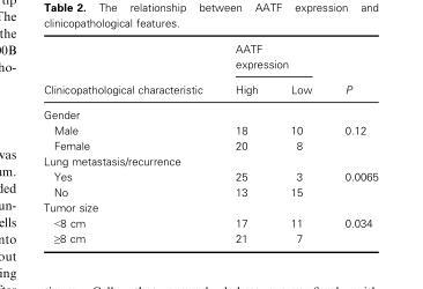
<table><thead><tr><td rowspan="2">Clinicopathological characteristic</td><td colspan="2">AATF expression</td><td rowspan="2">P</td></tr><tr><td>High</td><td>Low</td></tr></thead><tbody><tr><td colspan="4">Gender</td></tr><tr><td>Male</td><td>18</td><td>10</td><td rowspan="2">0.12</td></tr><tr><td>Female</td><td>20</td><td>8</td></tr><tr><td colspan="4">Lung metastasis/recurrence</td></tr><tr><td>Yes</td><td>25</td><td>3</td><td rowspan="2">0.0065</td></tr><tr><td>No</td><td>13</td><td>15</td></tr><tr><td colspan="4">Tumor size</td></tr><tr><td>&lt;8 cm</td><td>17</td><td>11</td><td rowspan="2">0.034</td></tr><tr><td>≥8 cm</td><td>21</td><td>7</td></tr></tbody></table>